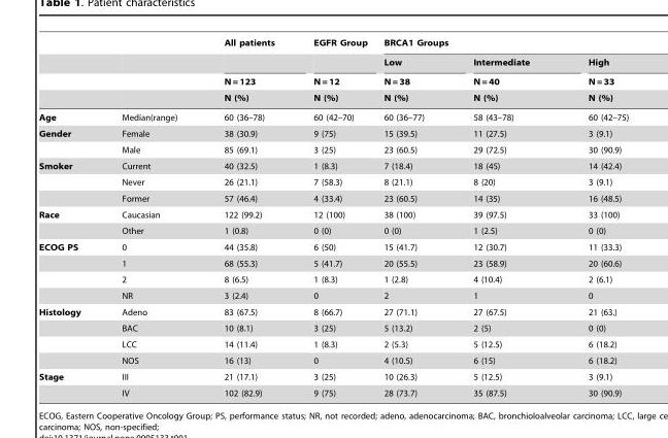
<table><thead><tr><td rowspan="4"></td><td rowspan="4"></td><td rowspan="4">All patients N = 123 N (%)</td><td rowspan="4">EGFR Group N = 12 N (%)</td><td colspan="3">BRCA1 Groups</td></tr><tr><td rowspan="3">Low N = 38 N (%)</td><td rowspan="3">Intermediate N = 40 N (%)</td><td rowspan="3">High N = 33 N (%)</td></tr><tr></tr><tr></tr></thead><tbody><tr><td>Age</td><td>Median(range)</td><td>60 (36–78)</td><td>60 (42–70)</td><td>60 (36–77)</td><td>58 (43–78)</td><td>60 (42–75)</td></tr><tr><td rowspan="2">Gender</td><td>Female</td><td>38 (30.9)</td><td>9 (75)</td><td>15 (39.5)</td><td>11 (27.5)</td><td>3 (9.1)</td></tr><tr><td>Male</td><td>85 (69.1)</td><td>3 (25)</td><td>23 (60.5)</td><td>29 (72.5)</td><td>30 (90.9)</td></tr><tr><td rowspan="3">Smoker</td><td>Current</td><td>40 (32.5)</td><td>1 (8.3)</td><td>7 (18.4)</td><td>18 (45)</td><td>14 (42.4)</td></tr><tr><td>Never</td><td>26 (21.1)</td><td>7 (58.3)</td><td>8 (21.1)</td><td>8 (20)</td><td>3 (9.1)</td></tr><tr><td>Former</td><td>57 (46.4)</td><td>4 (33.4)</td><td>23 (60.5)</td><td>14 (35)</td><td>16 (48.5)</td></tr><tr><td rowspan="2">Race</td><td>Caucasian</td><td>122 (99.2)</td><td>12 (100)</td><td>38 (100)</td><td>39 (97.5)</td><td>33 (100)</td></tr><tr><td>Other</td><td>1 (0.8)</td><td>0 (0)</td><td>0 (0)</td><td>1 (2.5)</td><td>0 (0)</td></tr><tr><td rowspan="4">ECOG PS</td><td>0</td><td>44 (35.8)</td><td>6 (50)</td><td>15 (41.7)</td><td>12 (30.7)</td><td>11 (33.3)</td></tr><tr><td>1</td><td>68 (55.3)</td><td>5 (41.7)</td><td>20 (55.5)</td><td>23 (58.9)</td><td>20 (60.6)</td></tr><tr><td>2</td><td>8 (6.5)</td><td>1 (8.3)</td><td>1 (2.8)</td><td>4 (10.4)</td><td>2 (6.1)</td></tr><tr><td>NR</td><td>3 (2.4)</td><td>0</td><td>2</td><td>1</td><td>0</td></tr><tr><td rowspan="4">Histology</td><td>Adeno</td><td>83 (67.5)</td><td>8 (66.7)</td><td>27 (71.1)</td><td>27 (67.5)</td><td>21 (63.)</td></tr><tr><td>BAC</td><td>10 (8.1)</td><td>3 (25)</td><td>5 (13.2)</td><td>2 (5)</td><td>0 (0)</td></tr><tr><td>LCC</td><td>14 (11.4)</td><td>1 (8.3)</td><td>2 (5.3)</td><td>5 (12.5)</td><td>6 (18.2)</td></tr><tr><td>NOS</td><td>16 (13)</td><td>0</td><td>4 (10.5)</td><td>6 (15)</td><td>6 (18.2)</td></tr><tr><td rowspan="2">Stage</td><td>III</td><td>21 (17.1)</td><td>3 (25)</td><td>10 (26.3)</td><td>5 (12.5)</td><td>3 (9.1)</td></tr><tr><td>IV</td><td>102 (82.9)</td><td>9 (75)</td><td>28 (73.7)</td><td>35 (87.5)</td><td>30 (90.9)</td></tr></tbody></table>